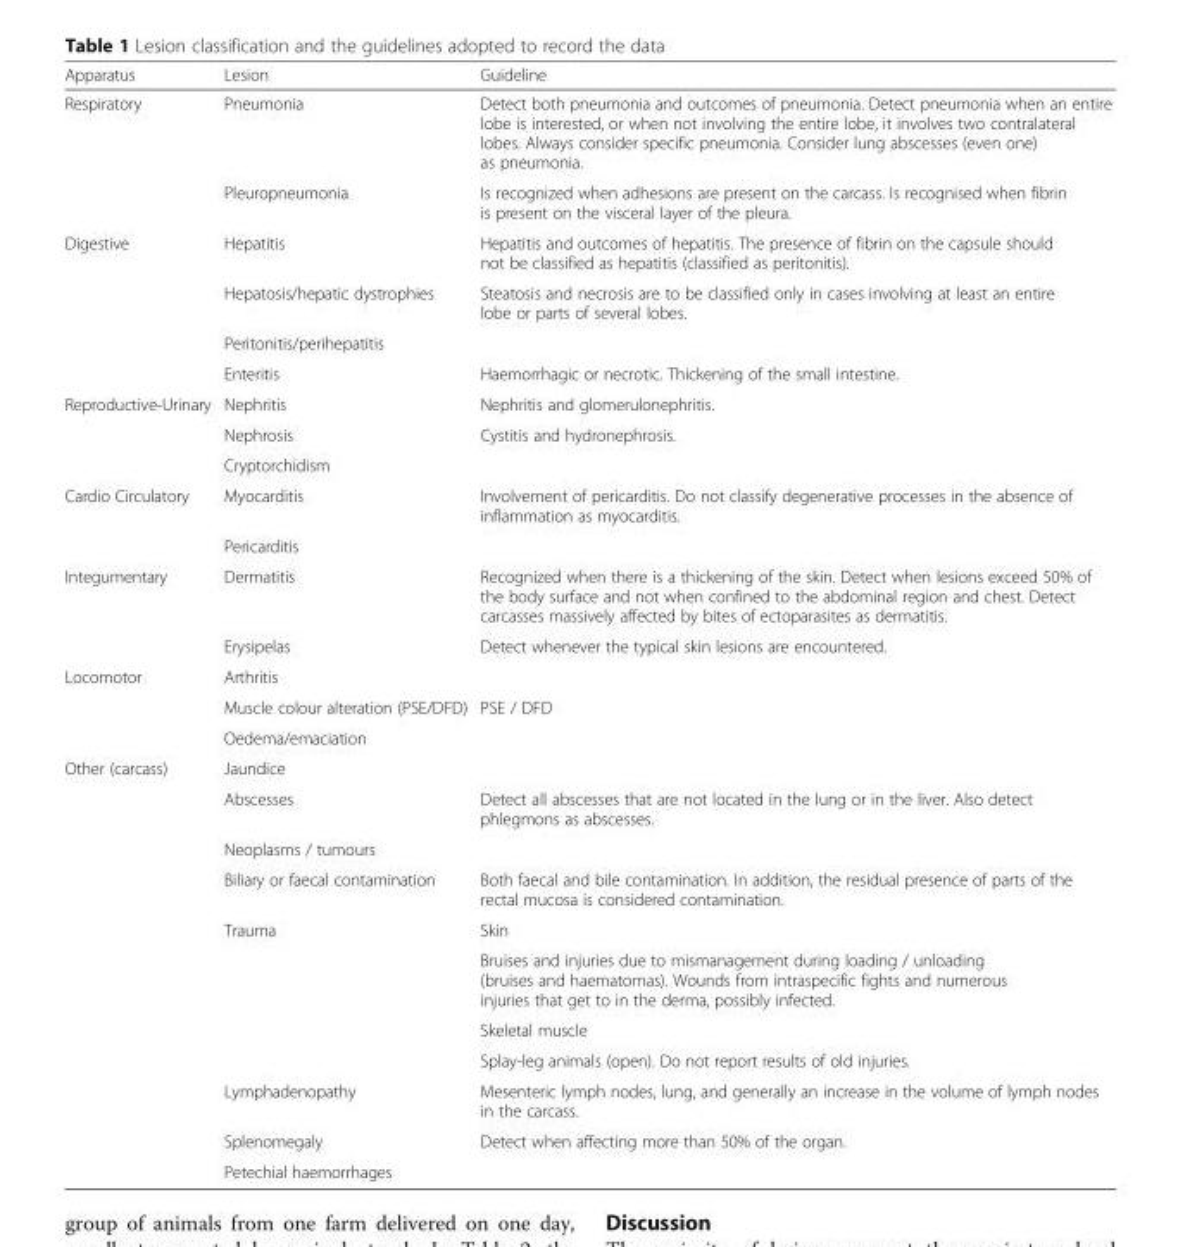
<table><thead><tr><td>Apparatus</td><td>Lesion</td><td>Guideline</td></tr></thead><tbody><tr><td rowspan="2">Respiratory</td><td>Pneumonia</td><td>Detect both pneumonia and outcomes of pneumonia. Detect pneumonia when an entire lobe is interested, or when not involving the entire lobe, it involves two contralateral lobes. Always consider specific pneumonia. Consider lung abscesses (even one) as pneumonia.</td></tr><tr><td>Pleuropneumonia</td><td>Is recognized when adhesions are present on the carcass. Is recognised when fibrin is present on the visceral layer of the pleura.</td></tr><tr><td rowspan="4">Digestive</td><td>Hepatitis</td><td>Hepatitis and outcomes of hepatitis. The presence of fibrin on the capsule should not be classified as hepatitis (classified as peritonitis).</td></tr><tr><td>Hepatosis/hepatic dystrophies</td><td>Steatosis and necrosis are to be classified only in cases involving at least an entire lobe or parts of several lobes.</td></tr><tr><td>Peritonitis/perihepatitis</td><td></td></tr><tr><td>Enteritis</td><td>Haemorrhagic or necrotic. Thickening of the small intestine.</td></tr><tr><td rowspan="3">Reproductive-Urinary</td><td>Nephritis</td><td>Nephritis and glomerulonephritis.</td></tr><tr><td>Nephrosis</td><td>Cystitis and hydronephrosis.</td></tr><tr><td>Cryptorchidism</td><td></td></tr><tr><td rowspan="2">Cardio Circulatory</td><td>Myocarditis</td><td>Involvement of pericarditis. Do not classify degenerative processes in the absence of inflammation as myocarditis.</td></tr><tr><td>Pericarditis</td><td></td></tr><tr><td rowspan="2">Integumentary</td><td>Dermatitis</td><td>Recognized when there is a thickening of the skin. Detect when lesions exceed 50% of the body surface and not when confined to the abdominal region and chest. Detect carcasses massively affected by bites of ectoparasites as dermatitis.</td></tr><tr><td>Erysipelas</td><td>Detect whenever the typical skin lesions are encountered.</td></tr><tr><td rowspan="3">Locomotor</td><td>Arthritis</td><td></td></tr><tr><td>Muscle colour alteration (PSE/DFD)</td><td>PSE / DFD</td></tr><tr><td>Oedema/emaciation</td><td></td></tr><tr><td rowspan="11">Other (carcass)</td><td>Jaundice</td><td></td></tr><tr><td>Abscesses</td><td>Detect all abscesses that are not located in the lung or in the liver. Also detect phlegmons as abscesses.</td></tr><tr><td>Neoplasms / tumours</td><td></td></tr><tr><td>Biliary or faecal contamination</td><td>Both faecal and bile contamination. In addition, the residual presence of parts of the rectal mucosa is considered contamination.</td></tr><tr><td rowspan="4">Trauma</td><td>Skin</td></tr><tr><td>Bruises and injuries due to mismanagement during loading / unloading (bruises and haematomas). Wounds from intraspecific fights and numerous injuries that get to in the derma, possibly infected.</td></tr><tr><td>Skeletal muscle</td></tr><tr><td>Splay-leg animals (open). Do not report results of old injuries.</td></tr><tr><td>Lymphadenopathy</td><td>Mesenteric lymph nodes, lung, and generally an increase in the volume of lymph nodes in the carcass.</td></tr><tr><td>Splenomegaly</td><td>Detect when affecting more than 50% of the organ.</td></tr><tr><td>Petechial haemorrhages</td><td></td></tr></tbody></table>